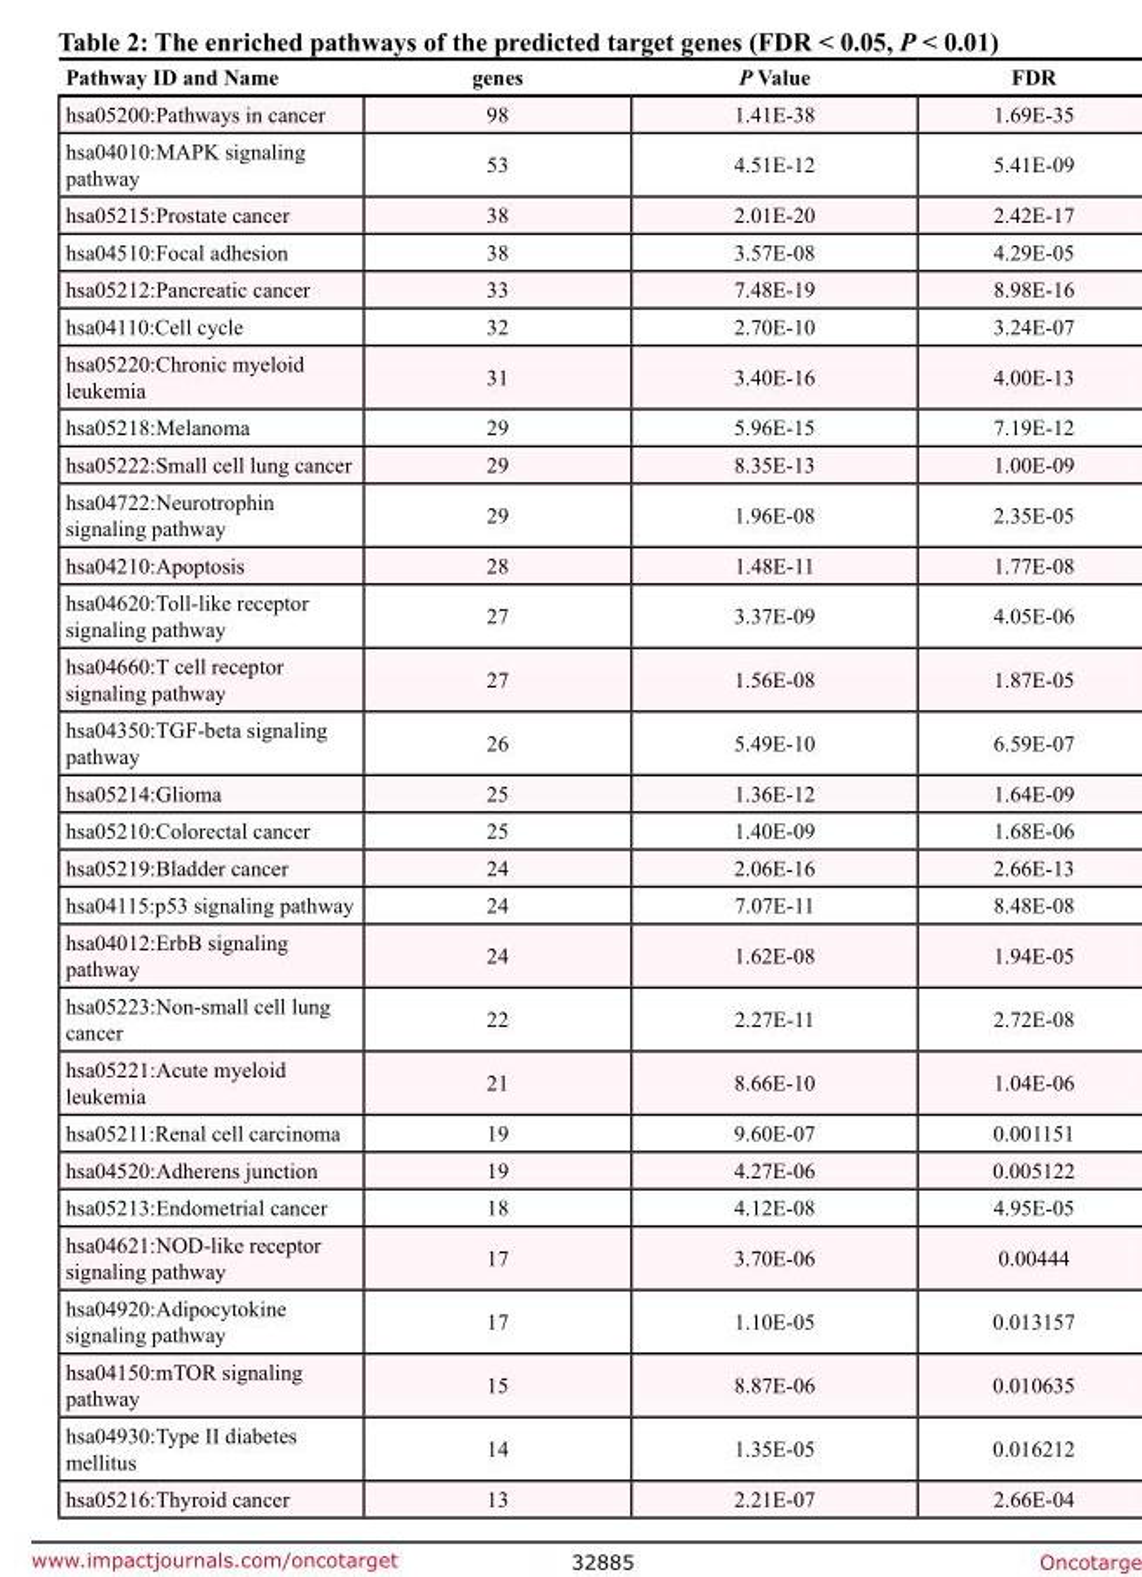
<table><thead><tr><td>Pathway ID and Name</td><td>genes</td><td>P Value</td><td>FDR</td></tr></thead><tbody><tr><td>hsa05200:Pathways in cancer</td><td>98</td><td>1.41E-38</td><td>1.69E-35</td></tr><tr><td>hsa04010:MAPK signaling pathway</td><td>53</td><td>4.51E-12</td><td>5.41E-09</td></tr><tr><td>hsa05215:Prostate cancer</td><td>38</td><td>2.01E-20</td><td>2.42E-17</td></tr><tr><td>hsa04510:Focal adhesion</td><td>38</td><td>3.57E-08</td><td>4.29E-05</td></tr><tr><td>hsa05212:Pancreatic cancer</td><td>33</td><td>7.48E-19</td><td>8.98E-16</td></tr><tr><td>hsa04110:Cell cycle</td><td>32</td><td>2.70E-10</td><td>3.24E-07</td></tr><tr><td>hsa05220:Chronic myeloid leukemia</td><td>31</td><td>3.40E-16</td><td>4.00E-13</td></tr><tr><td>hsa05218:Melanoma</td><td>29</td><td>5.96E-15</td><td>7.19E-12</td></tr><tr><td>hsa05222:Small cell lung cancer</td><td>29</td><td>8.35E-13</td><td>1.00E-09</td></tr><tr><td>hsa04722:Neurotrophin signaling pathway</td><td>29</td><td>1.96E-08</td><td>2.35E-05</td></tr><tr><td>hsa04210:Apoptosis</td><td>28</td><td>1.48E-11</td><td>1.77E-08</td></tr><tr><td>hsa04620:Toll-like receptor signaling pathway</td><td>27</td><td>3.37E-09</td><td>4.05E-06</td></tr><tr><td>hsa04660:T cell receptor signaling pathway</td><td>27</td><td>1.56E-08</td><td>1.87E-05</td></tr><tr><td>hsa04350:TGF-beta signaling pathway</td><td>26</td><td>5.49E-10</td><td>6.59E-07</td></tr><tr><td>hsa05214:Glioma</td><td>25</td><td>1.36E-12</td><td>1.64E-09</td></tr><tr><td>hsa05210:Colorectal cancer</td><td>25</td><td>1.40E-09</td><td>1.68E-06</td></tr><tr><td>hsa05219:Bladder cancer</td><td>24</td><td>2.06E-16</td><td>2.66E-13</td></tr><tr><td>hsa04115:p53 signaling pathway</td><td>24</td><td>7.07E-11</td><td>8.48E-08</td></tr><tr><td>hsa04012:ErbB signaling pathway</td><td>24</td><td>1.62E-08</td><td>1.94E-05</td></tr><tr><td>hsa05223:Non-small cell lung cancer</td><td>22</td><td>2.27E-11</td><td>2.72E-08</td></tr><tr><td>hsa05221:Acute myeloid leukemia</td><td>21</td><td>8.66E-10</td><td>1.04E-06</td></tr><tr><td>hsa05211:Renal cell carcinoma</td><td>19</td><td>9.60E-07</td><td>0.001151</td></tr><tr><td>hsa04520:Adherens junction</td><td>19</td><td>4.27E-06</td><td>0.005122</td></tr><tr><td>hsa05213:Endometrial cancer</td><td>18</td><td>4.12E-08</td><td>4.95E-05</td></tr><tr><td>hsa04621:NOD-like receptor signaling pathway</td><td>17</td><td>3.70E-06</td><td>0.00444</td></tr><tr><td>hsa04920:Adipocytokine signaling pathway</td><td>17</td><td>1.10E-05</td><td>0.013157</td></tr><tr><td>hsa04150:mTOR signaling pathway</td><td>15</td><td>8.87E-06</td><td>0.010635</td></tr><tr><td>hsa04930:Type II diabetes mellitus</td><td>14</td><td>1.35E-05</td><td>0.016212</td></tr><tr><td>hsa05216:Thyroid cancer</td><td>13</td><td>2.21E-07</td><td>2.66E-04</td></tr></tbody></table>